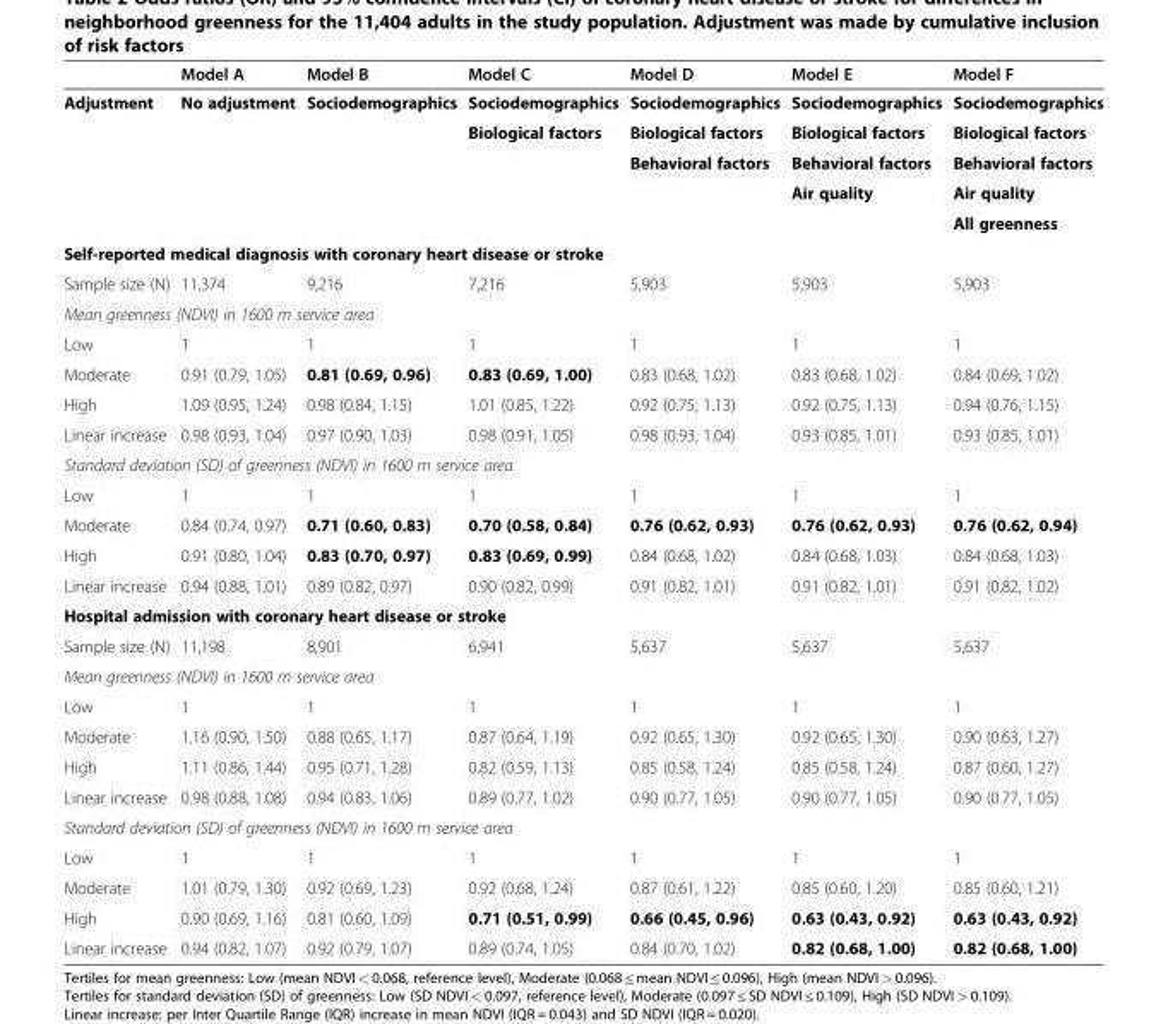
<table><thead><tr><td></td><td>Model A</td><td>Model B</td><td>Model C</td><td>Model D</td><td>Model E</td><td>Model F</td></tr></thead><tbody><tr><td rowspan="5">Adjustment</td><td>No adjustment</td><td>Sociodemographics</td><td>Sociodemographics</td><td>Sociodemographics</td><td>Sociodemographics</td><td>Sociodemographics</td></tr><tr><td></td><td></td><td>Biological factors</td><td>Biological factors</td><td>Biological factors</td><td>Biological factors</td></tr><tr><td></td><td></td><td></td><td>Behavioral factors</td><td>Behavioral factors</td><td>Behavioral factors</td></tr><tr><td></td><td></td><td></td><td></td><td>Air quality</td><td>Air quality</td></tr><tr><td></td><td></td><td></td><td></td><td></td><td>All greenness</td></tr><tr><td colspan="7">Self-reported medical diagnosis with coronary heart disease or stroke</td></tr><tr><td>Sample size (N)</td><td>11,374</td><td>9,216</td><td>7,216</td><td>5,903</td><td>5,903</td><td>5,903</td></tr><tr><td colspan="7">Mean greenness (NDVI) in 1600 m service area</td></tr><tr><td>Low</td><td>1</td><td>1</td><td>1</td><td>1</td><td>1</td><td>1</td></tr><tr><td>Moderate</td><td>0.91 (0.79, 1.05)</td><td>0.81 (0.69, 0.96)</td><td>0.83 (0.69, 1.00)</td><td>0.83 (0.68, 1.02)</td><td>0.83 (0.68, 1.02)</td><td>0.84 (0.69, 1.02)</td></tr><tr><td>High</td><td>1.09 (0.95, 1.24)</td><td>0.98 (0.84, 1.15)</td><td>1.01 (0.85, 1.22)</td><td>0.92 (0.75, 1.13)</td><td>0.92 (0.75, 1.13)</td><td>0.94 (0.76, 1.15)</td></tr><tr><td>Linear increase</td><td>0.98 (0.93, 1.04)</td><td>0.97 (0.90, 1.03)</td><td>0.98 (0.91, 1.05)</td><td>0.98 (0.93, 1.04)</td><td>0.93 (0.85, 1.01)</td><td>0.93 (0.85, 1.01)</td></tr><tr><td colspan="7">Standard deviation (SD) of greenness (NDVI) in 1600 m service area</td></tr><tr><td>Low</td><td>1</td><td>1</td><td>1</td><td>1</td><td>1</td><td>1</td></tr><tr><td>Moderate</td><td>0.84 (0.74, 0.97)</td><td>0.71 (0.60, 0.83)</td><td>0.70 (0.58, 0.84)</td><td>0.76 (0.62, 0.93)</td><td>0.76 (0.62, 0.93)</td><td>0.76 (0.62, 0.94)</td></tr><tr><td>High</td><td>0.91 (0.80, 1.04)</td><td>0.83 (0.70, 0.97)</td><td>0.83 (0.69, 0.99)</td><td>0.84 (0.68, 1.02)</td><td>0.84 (0.68, 1.03)</td><td>0.84 (0.68, 1.03)</td></tr><tr><td>Linear increase</td><td>0.94 (0.88, 1.01)</td><td>0.89 (0.82, 0.97)</td><td>0.90 (0.82, 0.99)</td><td>0.91 (0.82, 1.01)</td><td>0.91 (0.82, 1.01)</td><td>0.91 (0.82, 1.02)</td></tr><tr><td colspan="7">Hospital admission with coronary heart disease or stroke</td></tr><tr><td>Sample size (N)</td><td>11,198</td><td>8,901</td><td>6,941</td><td>5,637</td><td>5,637</td><td>5,637</td></tr><tr><td colspan="7">Mean greenness (NDVI) in 1600 m service area</td></tr><tr><td>Low</td><td>1</td><td>1</td><td>1</td><td>1</td><td>1</td><td>1</td></tr><tr><td>Moderate</td><td>1.16 (0.90, 1.50)</td><td>0.88 (0.65, 1.17)</td><td>0.87 (0.64, 1.19)</td><td>0.92 (0.65, 1.30)</td><td>0.92 (0.65, 1.30)</td><td>0.90 (0.63, 1.27)</td></tr><tr><td>High</td><td>1.11 (0.86, 1.44)</td><td>0.95 (0.71, 1.28)</td><td>0.82 (0.59, 1.13)</td><td>0.85 (0.58, 1.24)</td><td>0.85 (0.58, 1.24)</td><td>0.87 (0.60, 1.27)</td></tr><tr><td>Linear increase</td><td>0.98 (0.88, 1.08)</td><td>0.94 (0.83, 1.06)</td><td>0.89 (0.77, 1.02)</td><td>0.90 (0.77, 1.05)</td><td>0.90 (0.77, 1.05)</td><td>0.90 (0.77, 1.05)</td></tr><tr><td colspan="7">Standard deviation (SD) of greenness (NDVI) in 1600 m service area</td></tr><tr><td>Low</td><td>1</td><td>1</td><td>1</td><td>1</td><td>1</td><td>1</td></tr><tr><td>Moderate</td><td>1.01 (0.79, 1.30)</td><td>0.92 (0.69, 1.23)</td><td>0.92 (0.68, 1.24)</td><td>0.87 (0.61, 1.22)</td><td>0.85 (0.60, 1.20)</td><td>0.85 (0.60, 1.21)</td></tr><tr><td>High</td><td>0.90 (0.69, 1.16)</td><td>0.81 (0.60, 1.09)</td><td>0.71 (0.51, 0.99)</td><td>0.66 (0.45, 0.96)</td><td>0.63 (0.43, 0.92)</td><td>0.63 (0.43, 0.92)</td></tr><tr><td>Linear increase</td><td>0.94 (0.82, 1.07)</td><td>0.92 (0.79, 1.07)</td><td>0.89 (0.74, 1.05)</td><td>0.84 (0.70, 1.02)</td><td>0.82 (0.68, 1.00)</td><td>0.82 (0.68, 1.00)</td></tr></tbody></table>